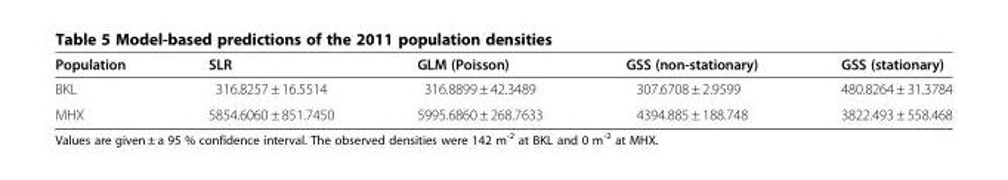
<table><thead><tr><td>Population</td><td>SLR</td><td>GLM (Poisson)</td><td>GSS (non-stationary)</td><td>GSS (stationary)</td></tr></thead><tbody><tr><td>BKL</td><td>316.8257 ± 16.5514</td><td>316.8899 ± 42.3489</td><td>307.6708 ± 2.9599</td><td>480.8264 ± 31.3784</td></tr><tr><td>MHX</td><td>5854.6060 ± 851.7450</td><td>5995.6860 ± 268.7633</td><td>4394.885 ± 188.748</td><td>3822.493 ± 558.468</td></tr></tbody></table>